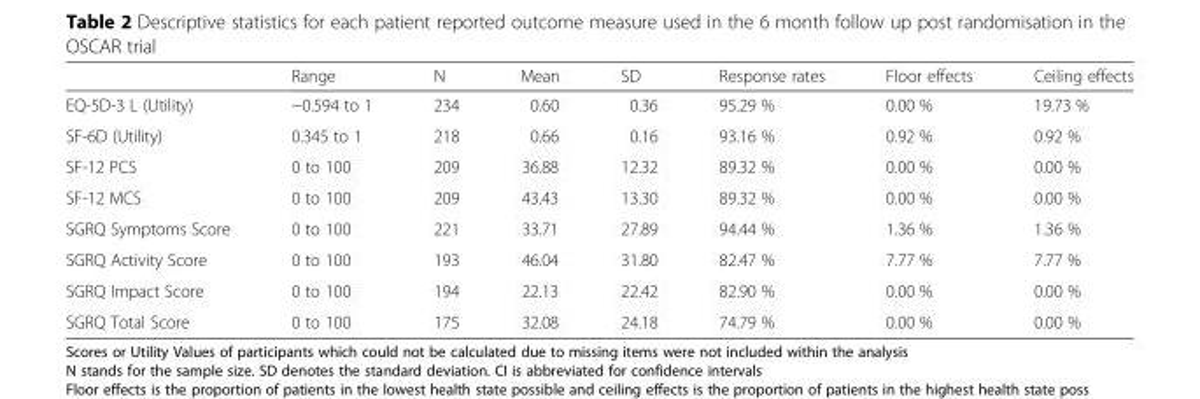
<table><thead><tr><td></td><td>Range</td><td>N</td><td>Mean</td><td>SD</td><td>Response rates</td><td>Floor effects</td><td>Ceiling effects</td></tr></thead><tbody><tr><td>EQ-5D-3 L (Utility)</td><td>−0.594 to 1</td><td>234</td><td>0.60</td><td>0.36</td><td>95.29 %</td><td>0.00 %</td><td>19.73 %</td></tr><tr><td>SF-6D (Utility)</td><td>0.345 to 1</td><td>218</td><td>0.66</td><td>0.16</td><td>93.16 %</td><td>0.92 %</td><td>0.92 %</td></tr><tr><td>SF-12 PCS</td><td>0 to 100</td><td>209</td><td>36.88</td><td>12.32</td><td>89.32 %</td><td>0.00 %</td><td>0.00 %</td></tr><tr><td>SF-12 MCS</td><td>0 to 100</td><td>209</td><td>43.43</td><td>13.30</td><td>89.32 %</td><td>0.00 %</td><td>0.00 %</td></tr><tr><td>SGRQ Symptoms Score</td><td>0 to 100</td><td>221</td><td>33.71</td><td>27.89</td><td>94.44 %</td><td>1.36 %</td><td>1.36 %</td></tr><tr><td>SGRQ Activity Score</td><td>0 to 100</td><td>193</td><td>46.04</td><td>31.80</td><td>82.47 %</td><td>7.77 %</td><td>7.77 %</td></tr><tr><td>SGRQ Impact Score</td><td>0 to 100</td><td>194</td><td>22.13</td><td>22.42</td><td>82.90 %</td><td>0.00 %</td><td>0.00 %</td></tr><tr><td>SGRQ Total Score</td><td>0 to 100</td><td>175</td><td>32.08</td><td>24.18</td><td>74.79 %</td><td>0.00 %</td><td>0.00 %</td></tr></tbody></table>